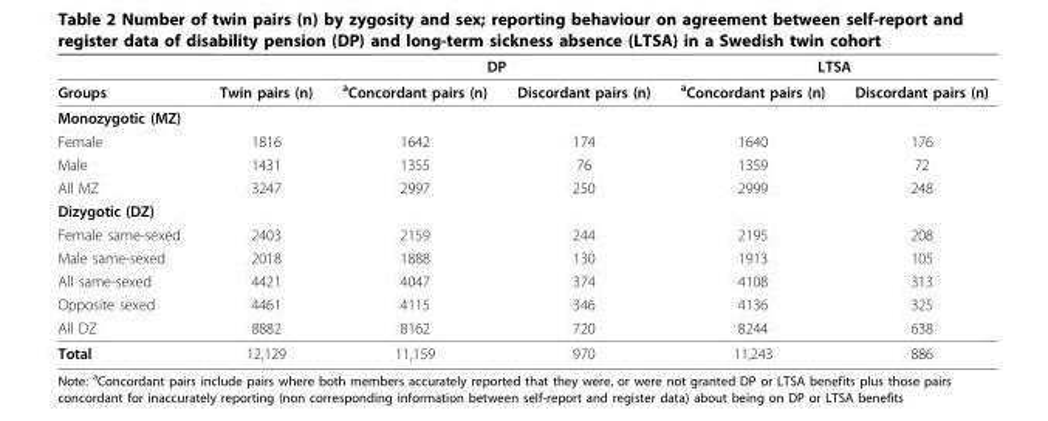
<table><thead><tr><td rowspan="2">Groups</td><td rowspan="2">Twin pairs (n)</td><td colspan="2">DP</td><td colspan="2">LTSA</td></tr><tr><td><sup>a</sup>Concordant pairs (n)</td><td>Discordant pairs (n)</td><td><sup>a</sup>Concordant pairs (n)</td><td>Discordant pairs (n)</td></tr></thead><tbody><tr><td colspan="6">Monozygotic (MZ)</td></tr><tr><td>Female</td><td>1816</td><td>1642</td><td>174</td><td>1640</td><td>176</td></tr><tr><td>Male</td><td>1431</td><td>1355</td><td>76</td><td>1359</td><td>72</td></tr><tr><td>All MZ</td><td>3247</td><td>2997</td><td>250</td><td>2999</td><td>248</td></tr><tr><td colspan="6">Dizygotic (DZ)</td></tr><tr><td>Female same-sexed</td><td>2403</td><td>2159</td><td>244</td><td>2195</td><td>208</td></tr><tr><td>Male same-sexed</td><td>2018</td><td>1888</td><td>130</td><td>1913</td><td>105</td></tr><tr><td>All same-sexed</td><td>4421</td><td>4047</td><td>374</td><td>4108</td><td>313</td></tr><tr><td>Opposite sexed</td><td>4461</td><td>4115</td><td>346</td><td>4136</td><td>325</td></tr><tr><td>All DZ</td><td>8882</td><td>8162</td><td>720</td><td>8244</td><td>638</td></tr><tr><td>Total</td><td>12,129</td><td>11,159</td><td>970</td><td>11,243</td><td>886</td></tr></tbody></table>